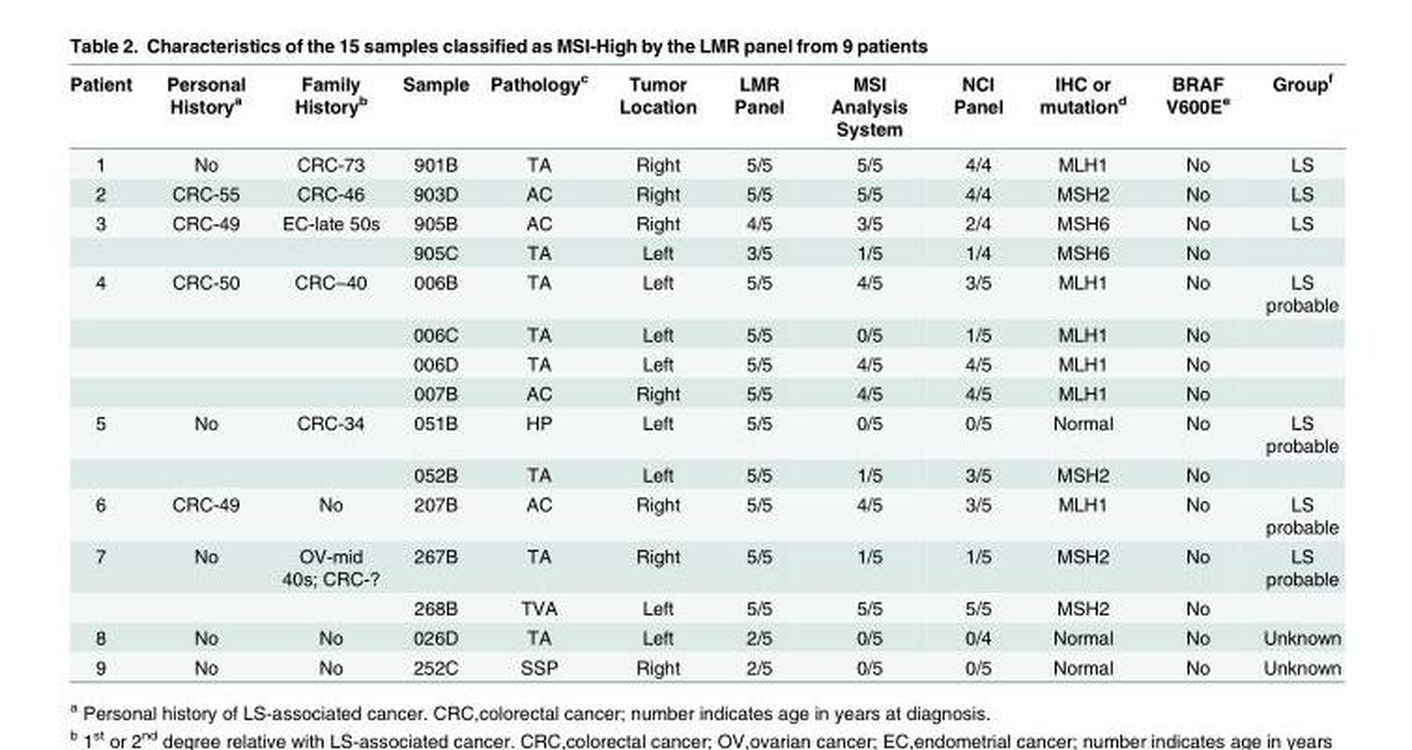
<table><thead><tr><td>Patient</td><td>Personal History<sup>a</sup></td><td>Family History<sup>b</sup></td><td>Sample</td><td>Pathology<sup>c</sup></td><td>Tumor Location</td><td>LMR Panel</td><td>MSI Analysis System</td><td>NCI Panel</td><td>IHC or mutation<sup>d</sup></td><td>BRAF V600E<sup>e</sup></td><td>Group<sup>f</sup></td></tr></thead><tbody><tr><td>1</td><td>No</td><td>CRC-73</td><td>901B</td><td>TA</td><td>Right</td><td>5/5</td><td>5/5</td><td>4/4</td><td>MLH1</td><td>No</td><td>LS</td></tr><tr><td>2</td><td>CRC-55</td><td>CRC-46</td><td>903D</td><td>AC</td><td>Right</td><td>5/5</td><td>5/5</td><td>4/4</td><td>MSH2</td><td>No</td><td>LS</td></tr><tr><td rowspan="2">3</td><td>CRC-49</td><td>EC-late 50s</td><td>905B</td><td>AC</td><td>Right</td><td>4/5</td><td>3/5</td><td>2/4</td><td>MSH6</td><td>No</td><td>LS</td></tr><tr><td></td><td></td><td>905C</td><td>TA</td><td>Left</td><td>3/5</td><td>1/5</td><td>1/4</td><td>MSH6</td><td>No</td><td></td></tr><tr><td rowspan="4">4</td><td>CRC-50</td><td>CRC–40</td><td>006B</td><td>TA</td><td>Left</td><td>5/5</td><td>4/5</td><td>3/5</td><td>MLH1</td><td>No</td><td>LS probable</td></tr><tr><td></td><td></td><td>006C</td><td>TA</td><td>Left</td><td>5/5</td><td>0/5</td><td>1/5</td><td>MLH1</td><td>No</td><td></td></tr><tr><td></td><td></td><td>006D</td><td>TA</td><td>Left</td><td>5/5</td><td>4/5</td><td>4/5</td><td>MLH1</td><td>No</td><td></td></tr><tr><td></td><td></td><td>007B</td><td>AC</td><td>Right</td><td>5/5</td><td>4/5</td><td>4/5</td><td>MLH1</td><td>No</td><td></td></tr><tr><td rowspan="2">5</td><td>No</td><td>CRC-34</td><td>051B</td><td>HP</td><td>Left</td><td>5/5</td><td>0/5</td><td>0/5</td><td>Normal</td><td>No</td><td>LS probable</td></tr><tr><td></td><td></td><td>052B</td><td>TA</td><td>Left</td><td>5/5</td><td>1/5</td><td>3/5</td><td>MSH2</td><td>No</td><td></td></tr><tr><td>6</td><td>CRC-49</td><td>No</td><td>207B</td><td>AC</td><td>Right</td><td>5/5</td><td>4/5</td><td>3/5</td><td>MLH1</td><td>No</td><td>LS probable</td></tr><tr><td rowspan="2">7</td><td>No</td><td>OV-mid 40s; CRC-?</td><td>267B</td><td>TA</td><td>Right</td><td>5/5</td><td>1/5</td><td>1/5</td><td>MSH2</td><td>No</td><td>LS probable</td></tr><tr><td></td><td></td><td>268B</td><td>TVA</td><td>Left</td><td>5/5</td><td>5/5</td><td>5/5</td><td>MSH2</td><td>No</td><td></td></tr><tr><td>8</td><td>No</td><td>No</td><td>026D</td><td>TA</td><td>Left</td><td>2/5</td><td>0/5</td><td>0/4</td><td>Normal</td><td>No</td><td>Unknown</td></tr><tr><td>9</td><td>No</td><td>No</td><td>252C</td><td>SSP</td><td>Right</td><td>2/5</td><td>0/5</td><td>0/5</td><td>Normal</td><td>No</td><td>Unknown</td></tr></tbody></table>